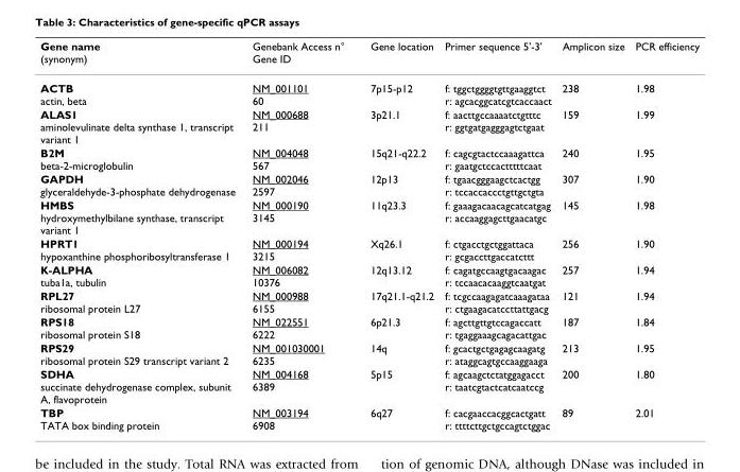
<table><thead><tr><td>Gene name (synonym)</td><td>Genebank Access n° Gene ID</td><td>Gene location</td><td>Primer sequence 5&#x27;-3&#x27;</td><td>Amplicon size</td><td>PCR efficiency</td></tr></thead><tbody><tr><td>ACTB actin, beta</td><td>NM_001101 60</td><td>7p15-p12</td><td>f: tggctggggtgttgaaggtct r: agcacggcatcgtcaccaact</td><td>238</td><td>1.98</td></tr><tr><td>ALAS1 aminolevulinate delta synthase 1, transcript variant 1</td><td>NM_000688 211</td><td>3p21.1</td><td>f: aacttgccaaaatctgtttc r: ggtgatgagggagtctgaat</td><td>159</td><td>1.99</td></tr><tr><td>B2M beta-2-microglobulin</td><td>NM_004048 567</td><td>15q21-q22.2</td><td>f: cagcgtactccaaagattca r: gaatgctccactttttcaat</td><td>240</td><td>1.95</td></tr><tr><td>GAPDH glyceraldehyde-3-phosphate dehydrogenase</td><td>NM_002046 2597</td><td>12p13</td><td>f: tgaacgggaagctcactgg r: tccaccaccctgttgctgta</td><td>307</td><td>1.90</td></tr><tr><td>HMBS hydroxymethylbilane synthase, transcript variant 1</td><td>NM_000190 3145</td><td>11q23.3</td><td>f: gaaagacaacagcatcatgag r: accaaggagcttgaacatgc</td><td>145</td><td>1.98</td></tr><tr><td>HPRT1 hypoxanthine phosphoribosyltransferase 1</td><td>NM_000194 3215</td><td>Xq26.1</td><td>f: ctgacctgctggattaca r: gcgaccttgaccatcttt</td><td>256</td><td>1.90</td></tr><tr><td>K-ALPHA tuba1a, tubulin</td><td>NM_006082 10376</td><td>12q13.12</td><td>f: cagatgccaagtgacaagac r: tccaacacaaggtcaatgat</td><td>257</td><td>1.94</td></tr><tr><td>RPL27 ribosomal protein L27</td><td>NM_000988 6155</td><td>17q21.1-q21.2</td><td>f: tcgccaagagatcaaagataa r: ctgaagacatccttattgacg</td><td>121</td><td>1.94</td></tr><tr><td>RPS18 ribosomal protein S18</td><td>NM_022551 6222</td><td>6p21.3</td><td>f: agcttgttgtccagaccatt r: tgaggaaagcagacattgac</td><td>187</td><td>1.84</td></tr><tr><td>RPS29 ribosomal protein S29 transcript variant 2</td><td>NM_001030001 6235</td><td>14q</td><td>f: gcactgctgagagcaagatg r: ataggcagtgccaaggaaga</td><td>213</td><td>1.95</td></tr><tr><td>SDHA succinate dehydrogenase complex, subunit A, flavoprotein</td><td>NM_004168 6389</td><td>5p15</td><td>f: agcaagctctatggagacct r: taatcgtactcatcaatccg</td><td>200</td><td>1.80</td></tr><tr><td>TBP TATA box binding protein</td><td>NM_003194 6908</td><td>6q27</td><td>f: cacgaaccacggcactgatt r: ttttcttgctgccagtctggac</td><td>89</td><td>2.01</td></tr></tbody></table>